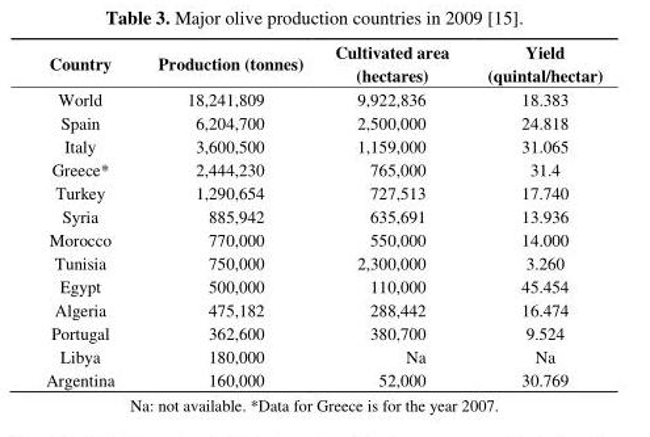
<table><thead><tr><td>Country</td><td>Production (tonnes)</td><td>Cultivated area (hectares)</td><td>Yield (quintal/hectar)</td></tr></thead><tbody><tr><td>World</td><td>18,241,809</td><td>9,922,836</td><td>18.383</td></tr><tr><td>Spain</td><td>6,204,700</td><td>2,500,000</td><td>24.818</td></tr><tr><td>Italy</td><td>3,600,500</td><td>1,159,000</td><td>31.065</td></tr><tr><td>Greece*</td><td>2,444,230</td><td>765,000</td><td>31.4</td></tr><tr><td>Turkey</td><td>1,290,654</td><td>727,513</td><td>17.740</td></tr><tr><td>Syria</td><td>885,942</td><td>635,691</td><td>13.936</td></tr><tr><td>Morocco</td><td>770,000</td><td>550,000</td><td>14.000</td></tr><tr><td>Tunisia</td><td>750,000</td><td>2,300,000</td><td>3.260</td></tr><tr><td>Egypt</td><td>500,000</td><td>110,000</td><td>45.454</td></tr><tr><td>Algeria</td><td>475,182</td><td>288,442</td><td>16.474</td></tr><tr><td>Portugal</td><td>362,600</td><td>380,700</td><td>9.524</td></tr><tr><td>Libya</td><td>180,000</td><td>Na</td><td>Na</td></tr><tr><td>Argentina</td><td>160,000</td><td>52,000</td><td>30.769</td></tr></tbody></table>